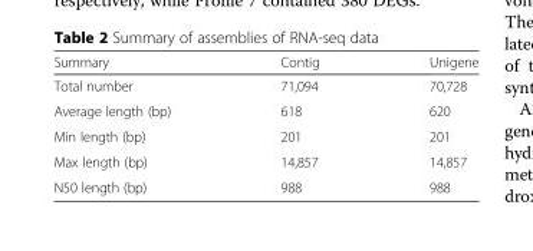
<table><thead><tr><td>Summary</td><td>Contig</td><td>Unigene</td></tr></thead><tbody><tr><td>Total number</td><td>71,094</td><td>70,728</td></tr><tr><td>Average length (bp)</td><td>618</td><td>620</td></tr><tr><td>Min length (bp)</td><td>201</td><td>201</td></tr><tr><td>Max length (bp)</td><td>14,857</td><td>14,857</td></tr><tr><td>N50 length (bp)</td><td>988</td><td>988</td></tr></tbody></table>